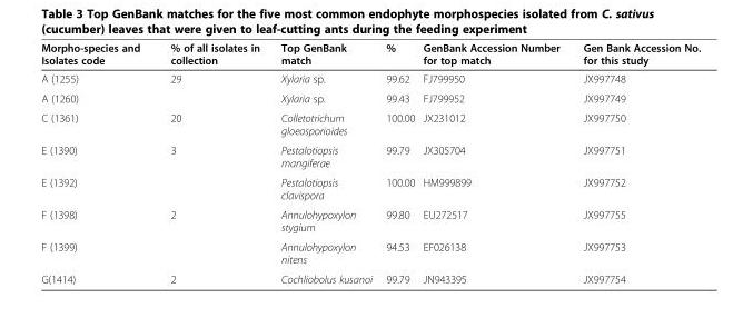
<table><thead><tr><td>Morpho-species and Isolates code</td><td>% of all isolates in collection</td><td>Top GenBank match</td><td>%</td><td>GenBank Accession Number for top match</td><td>Gen Bank Accession No. for this study</td></tr></thead><tbody><tr><td>A (1255)</td><td>29</td><td>Xylaria sp.</td><td>99.62</td><td>FJ799950</td><td>JX997748</td></tr><tr><td>A (1260)</td><td></td><td>Xylaria sp.</td><td>99.43</td><td>FJ799952</td><td>JX997749</td></tr><tr><td>C (1361)</td><td>20</td><td>Colletotrichum gloeosporioides</td><td>100.00</td><td>JX231012</td><td>JX997750</td></tr><tr><td>E (1390)</td><td>3</td><td>Pestalotiopsis mangiferae</td><td>99.79</td><td>JX305704</td><td>JX997751</td></tr><tr><td>E (1392)</td><td></td><td>Pestalotiopsis clavispora</td><td>100.00</td><td>HM999899</td><td>JX997752</td></tr><tr><td>F (1398)</td><td>2</td><td>Annulohypoxylon stygium</td><td>99.80</td><td>EU272517</td><td>JX997755</td></tr><tr><td>F (1399)</td><td></td><td>Annulohypoxylon nitens</td><td>94.53</td><td>EF026138</td><td>JX997753</td></tr><tr><td>G(1414)</td><td>2</td><td>Cochliobolus kusanoi</td><td>99.79</td><td>JN943395</td><td>JX997754</td></tr></tbody></table>